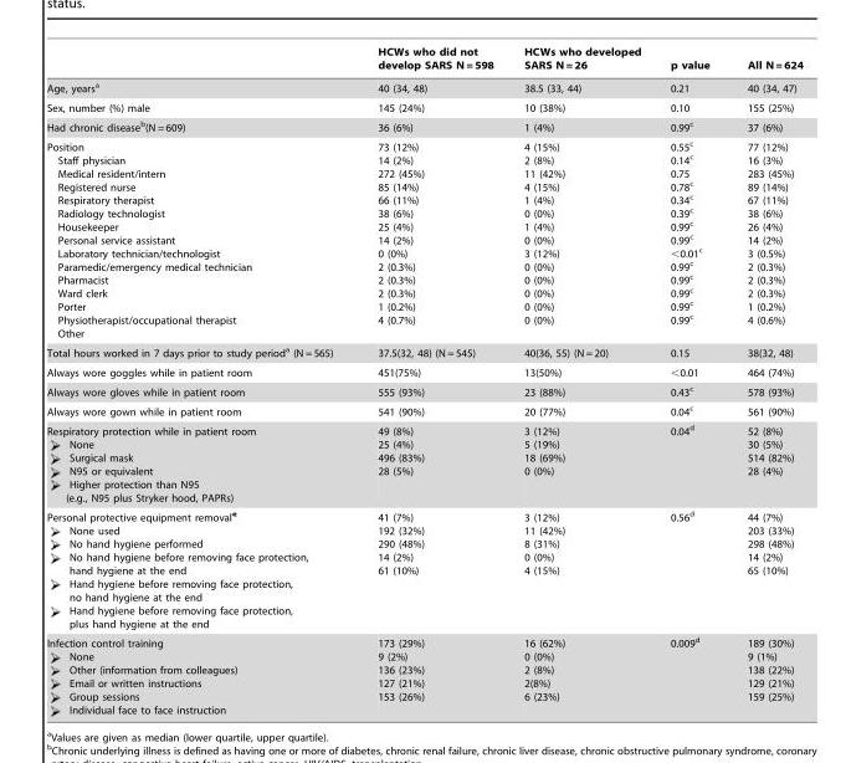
<table><thead><tr><td></td><td>HCWs who did not develop SARS N = 598</td><td>HCWs who developed SARS N = 26</td><td>p value</td><td>All N = 624</td></tr></thead><tbody><tr><td>Age, years<sup>a</sup></td><td>40 (34, 48)</td><td>38.5 (33, 44)</td><td>0.21</td><td>40 (34, 47)</td></tr><tr><td>Sex, number (%) male</td><td>145 (24%)</td><td>10 (38%)</td><td>0.10</td><td>155 (25%)</td></tr><tr><td>Had chronic disease<sup>b</sup>(N = 609)</td><td>36 (6%)</td><td>1 (4%)</td><td>0.99<sup>c</sup></td><td>37 (6%)</td></tr><tr><td>Position Staff physician Medical resident/intern Registered nurse Respiratory therapist Radiology technologist Housekeeper Personal service assistant Laboratory technician/technologist Paramedic/emergency medical technician Pharmacist Ward clerk Porter Physiotherapist/occupational therapist Other</td><td>73 (12%) 14 (2%) 272 (45%) 85 (14%) 66 (11%) 38 (6%) 25 (4%) 14 (2%) 0 (0%) 2 (0.3%) 2 (0.3%) 2 (0.3%) 1 (0.2%) 4 (0.7%)</td><td>4 (15%) 2 (8%) 11 (42%) 4 (15%) 1 (4%) 0 (0%) 1 (4%) 0 (0%) 3 (12%) 0 (0%) 0 (0%) 0 (0%) 0 (0%) 0 (0%)</td><td>0.55<sup>c</sup> 0.14<sup>c</sup> 0.75 0.78<sup>c</sup> 0.34<sup>c</sup> 0.39<sup>c</sup> 0.99<sup>c</sup> 0.99<sup>c</sup> &lt;0.01<sup>c</sup> 0.99<sup>c</sup> 0.99<sup>c</sup> 0.99<sup>c</sup> 0.99<sup>c</sup> 0.99<sup>c</sup></td><td>77 (12%) 16 (3%) 283 (45%) 89 (14%) 67 (11%) 38 (6%) 26 (4%) 14 (2%) 3 (0.5%) 2 (0.3%) 2 (0.3%) 2 (0.3%) 1 (0.2%) 4 (0.6%)</td></tr><tr><td>Total hours worked in 7 days prior to study period<sup>a</sup> (N = 565)</td><td>37.5(32, 48) (N = 545)</td><td>40(36, 55) (N = 20)</td><td>0.15</td><td>38(32, 48)</td></tr><tr><td>Always wore goggles while in patient room</td><td>451(75%)</td><td>13(50%)</td><td>&lt;0.01</td><td>464 (74%)</td></tr><tr><td>Always wore gloves while in patient room</td><td>555 (93%)</td><td>23 (88%)</td><td>0.43<sup>c</sup></td><td>578 (93%)</td></tr><tr><td>Always wore gown while in patient room</td><td>541 (90%)</td><td>20 (77%)</td><td>0.04<sup>c</sup></td><td>561 (90%)</td></tr><tr><td>Respiratory protection while in patient room None Surgical mask N95 or equivalent Higher protection than N95 (e.g., N95 plus Stryker hood, PAPRs)</td><td>49 (8%) 25 (4%) 496 (83%) 28 (5%)</td><td>3 (12%) 5 (19%) 18 (69%) 0 (0%)</td><td>0.04<sup>d</sup></td><td>52 (8%) 30 (5%) 514 (82%) 28 (4%)</td></tr><tr><td>Personal protective equipment removal<sup>e</sup> None used No hand hygiene performed No hand hygiene before removing face protection, hand hygiene at the end Hand hygiene before removing face protection, no hand hygiene at the end Hand hygiene before removing face protection, plus hand hygiene at the end</td><td>41 (7%) 192 (32%) 290 (48%) 14 (2%) 61 (10%)</td><td>3 (12%) 11 (42%) 8 (31%) 0 (0%) 4 (15%)</td><td>0.56<sup>d</sup></td><td>44 (7%) 203 (33%) 298 (48%) 14 (2%) 65 (10%)</td></tr><tr><td>Infection control training None Other (information from colleagues) Email or written instructions Group sessions Individual face to face instruction</td><td>173 (29%) 9 (2%) 136 (23%) 127 (21%) 153 (26%)</td><td>16 (62%) 0 (0%) 2 (8%) 2(8%) 6 (23%)</td><td>0.009<sup>d</sup></td><td>189 (30%) 9 (1%) 138 (22%) 129 (21%) 159 (25%)</td></tr></tbody></table>